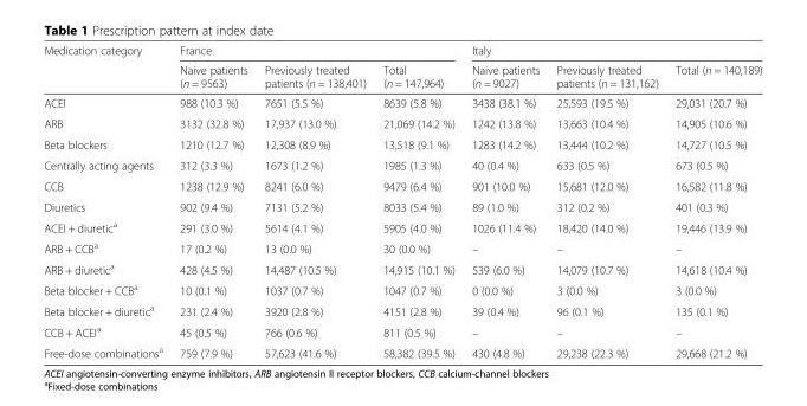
<table><thead><tr><td rowspan="2">Medication category</td><td colspan="3">France</td><td colspan="3">Italy</td></tr><tr><td>Naive patients (n = 9563)</td><td>Previously treated patients (n = 138,401)</td><td>Total (n = 147,964)</td><td>Naive patients (n = 9027)</td><td>Previously treated patients (n = 131,162)</td><td>Total (n = 140,189)</td></tr></thead><tbody><tr><td>ACEI</td><td>988 (10.3 %)</td><td>7651 (5.5 %)</td><td>8639 (5.8 %)</td><td>3438 (38.1 %)</td><td>25,593 (19.5 %)</td><td>29,031 (20.7 %)</td></tr><tr><td>ARB</td><td>3132 (32.8 %)</td><td>17,937 (13.0 %)</td><td>21,069 (14.2 %)</td><td>1242 (13.8 %)</td><td>13,663 (10.4 %)</td><td>14,905 (10.6 %)</td></tr><tr><td>Beta blockers</td><td>1210 (12.7 %)</td><td>12,308 (8.9 %)</td><td>13,518 (9.1 %)</td><td>1283 (14.2 %)</td><td>13,444 (10.2 %)</td><td>14,727 (10.5 %)</td></tr><tr><td>Centrally acting agents</td><td>312 (3.3 %)</td><td>1673 (1.2 %)</td><td>1985 (1.3 %)</td><td>40 (0.4 %)</td><td>633 (0.5 %)</td><td>673 (0.5 %)</td></tr><tr><td>CCB</td><td>1238 (12.9 %)</td><td>8241 (6.0 %)</td><td>9479 (6.4 %)</td><td>901 (10.0 %)</td><td>15,681 (12.0 %)</td><td>16,582 (11.8 %)</td></tr><tr><td>Diuretics</td><td>902 (9.4 %)</td><td>7131 (5.2 %)</td><td>8033 (5.4 %)</td><td>89 (1.0 %)</td><td>312 (0.2 %)</td><td>401 (0.3 %)</td></tr><tr><td>ACEI + diuretic<sup>a</sup></td><td>291 (3.0 %)</td><td>5614 (4.1 %)</td><td>5905 (4.0 %)</td><td>1026 (11.4 %)</td><td>18,420 (14.0 %)</td><td>19,446 (13.9 %)</td></tr><tr><td>ARB + CCB<sup>a</sup></td><td>17 (0.2 %)</td><td>13 (0.0 %)</td><td>30 (0.0 %)</td><td>–</td><td>–</td><td>–</td></tr><tr><td>ARB + diuretic<sup>a</sup></td><td>428 (4.5 %)</td><td>14,487 (10.5 %)</td><td>14,915 (10.1 %)</td><td>539 (6.0 %)</td><td>14,079 (10.7 %)</td><td>14,618 (10.4 %)</td></tr><tr><td>Beta blocker + CCB<sup>a</sup></td><td>10 (0.1 %)</td><td>1037 (0.7 %)</td><td>1047 (0.7 %)</td><td>0 (0.0 %)</td><td>3 (0.0 %)</td><td>3 (0.0 %)</td></tr><tr><td>Beta blocker + diuretic<sup>a</sup></td><td>231 (2.4 %)</td><td>3920 (2.8 %)</td><td>4151 (2.8 %)</td><td>39 (0.4 %)</td><td>96 (0.1 %)</td><td>135 (0.1 %)</td></tr><tr><td>CCB + ACEI<sup>a</sup></td><td>45 (0.5 %)</td><td>766 (0.6 %)</td><td>811 (0.5 %)</td><td>–</td><td>–</td><td>–</td></tr><tr><td>Free-dose combinations<sup>a</sup></td><td>759 (7.9 %)</td><td>57,623 (41.6 %)</td><td>58,382 (39.5 %)</td><td>430 (4.8 %)</td><td>29,238 (22.3 %)</td><td>29,668 (21.2 %)</td></tr></tbody></table>